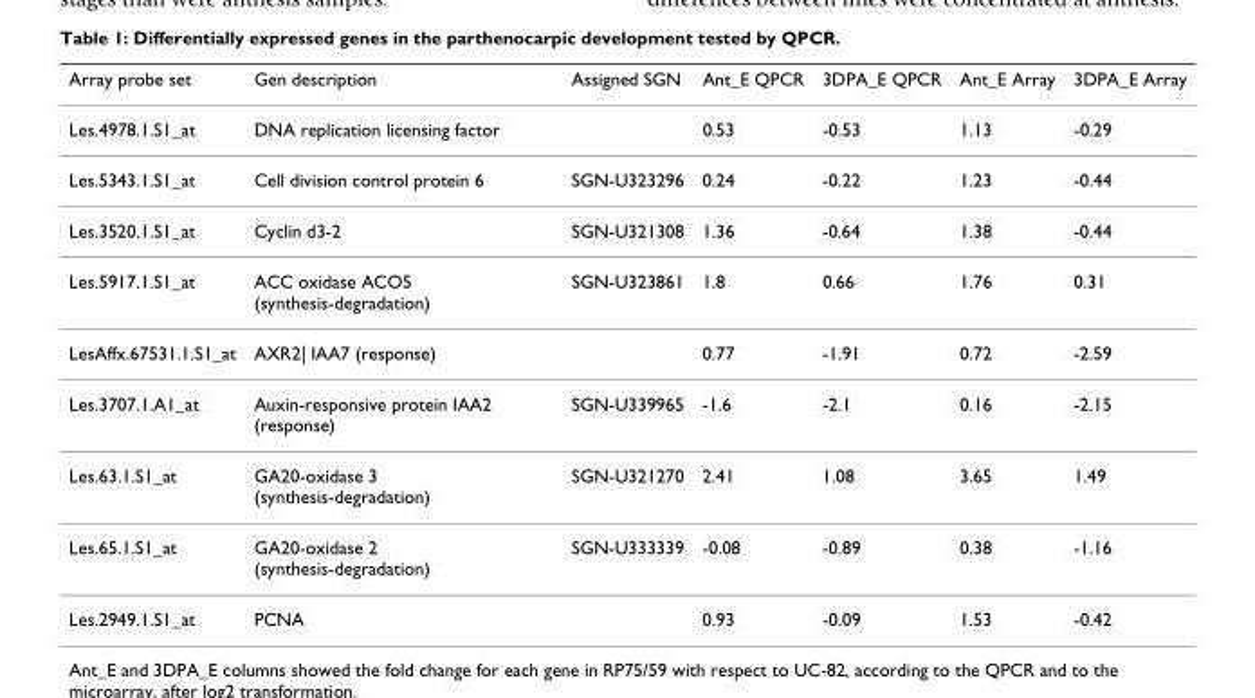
<table><thead><tr><td>Array probe set</td><td>Gen description</td><td>Assigned SGN</td><td>Ant_E QPCR</td><td>3DPA_E QPCR</td><td>Ant_E Array</td><td>3DPA_E Array</td></tr></thead><tbody><tr><td>Les.4978.1.S1_at</td><td>DNA replication licensing factor</td><td></td><td>0.53</td><td>-0.53</td><td>1.13</td><td>-0.29</td></tr><tr><td>Les.5343.1.S1_at</td><td>Cell division control protein 6</td><td>SGN-U323296</td><td>0.24</td><td>-0.22</td><td>1.23</td><td>-0.44</td></tr><tr><td>Les.3520.1.S1_at</td><td>Cyclin d3-2</td><td>SGN-U321308</td><td>1.36</td><td>-0.64</td><td>1.38</td><td>-0.44</td></tr><tr><td>Les.5917.1.S1_at</td><td>ACC oxidase ACO5 (synthesis-degradation)</td><td>SGN-U323861</td><td>1.8</td><td>0.66</td><td>1.76</td><td>0.31</td></tr><tr><td>LesAffx.67531.1.S1_at</td><td>AXR2| IAA7 (response)</td><td></td><td>0.77</td><td>-1.91</td><td>0.72</td><td>-2.59</td></tr><tr><td>Les.3707.1.A1_at</td><td>Auxin-responsive protein IAA2 (response)</td><td>SGN-U339965</td><td>-1.6</td><td>-2.1</td><td>0.16</td><td>-2.15</td></tr><tr><td>Les.63.1.S1_at</td><td>GA20-oxidase 3 (synthesis-degradation)</td><td>SGN-U321270</td><td>2.41</td><td>1.08</td><td>3.65</td><td>1.49</td></tr><tr><td>Les.65.1.S1_at</td><td>GA20-oxidase 2 (synthesis-degradation)</td><td>SGN-U333339</td><td>-0.08</td><td>-0.89</td><td>0.38</td><td>-1.16</td></tr><tr><td>Les.2949.1.S1_at</td><td>PCNA</td><td></td><td>0.93</td><td>-0.09</td><td>1.53</td><td>-0.42</td></tr></tbody></table>